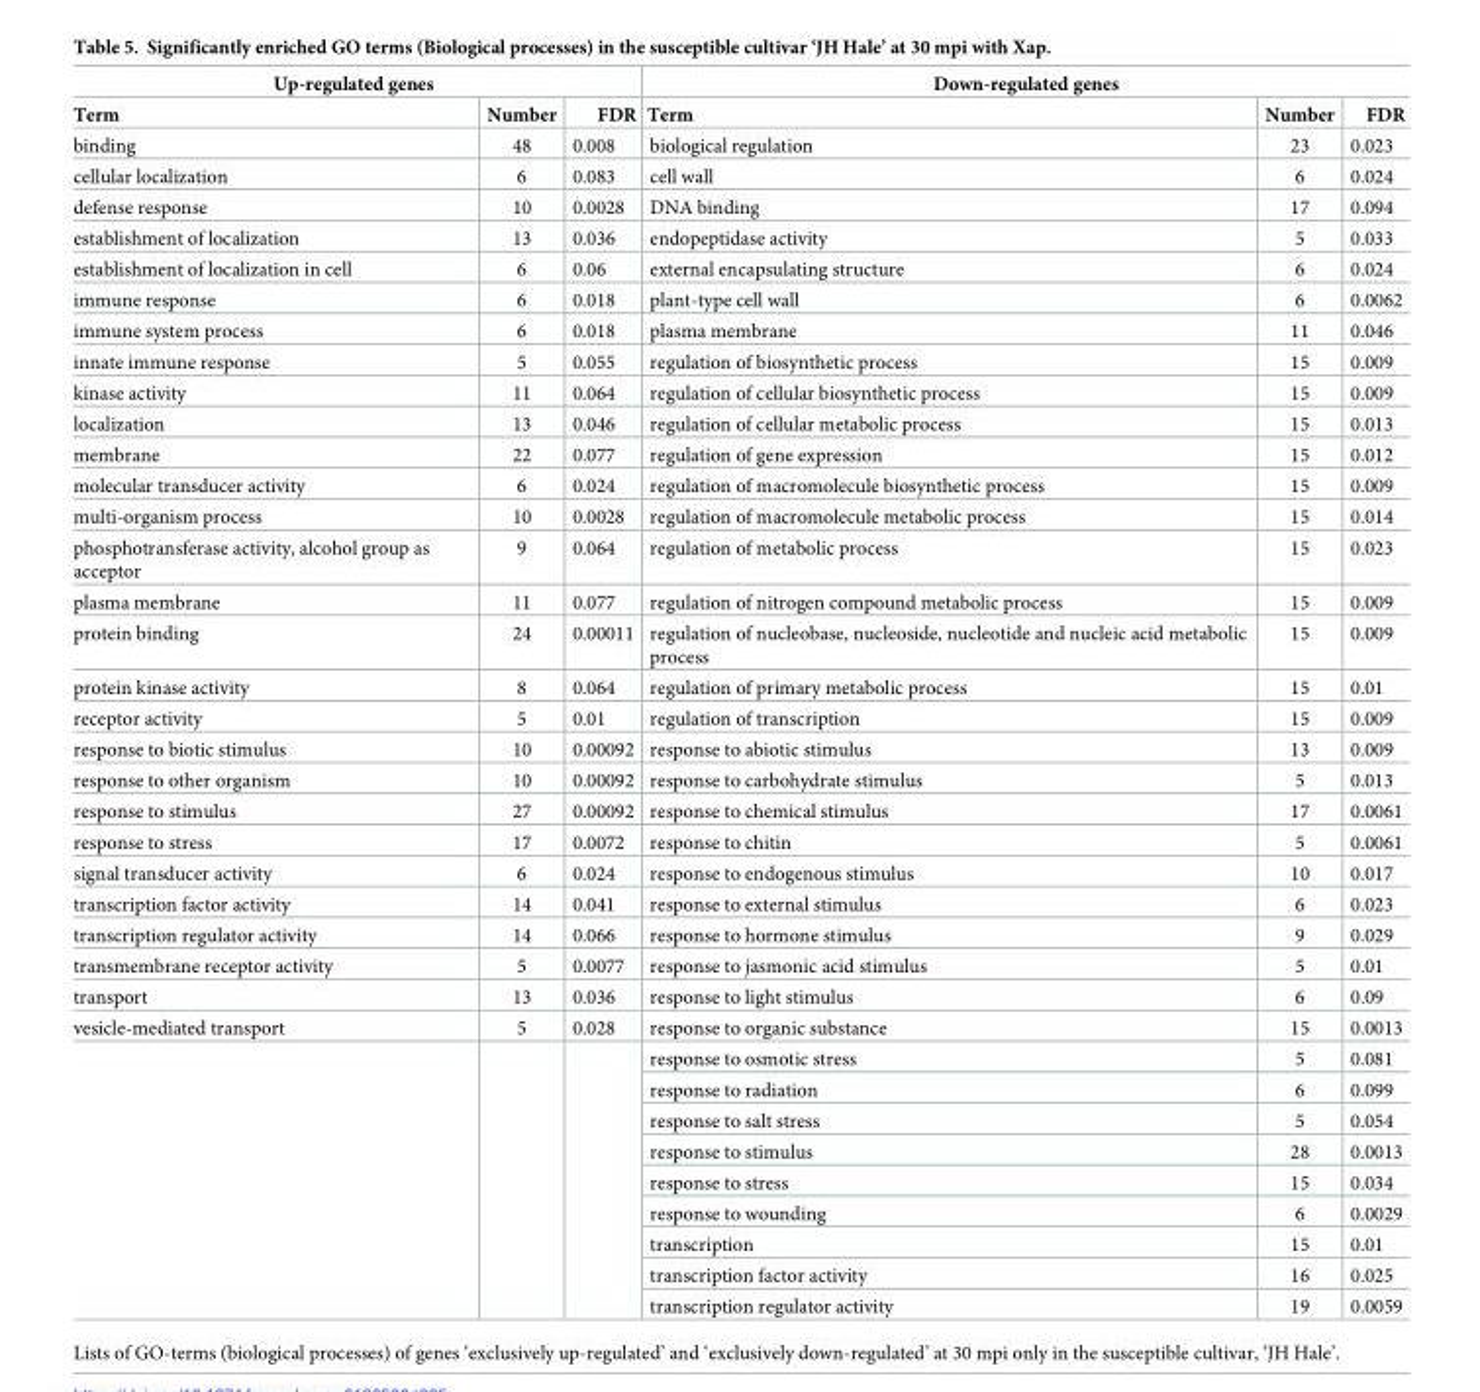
<table><thead><tr><td colspan="3">Up-regulated genes</td><td colspan="3">Down-regulated genes</td></tr><tr><td>Term</td><td>Number</td><td>FDR</td><td>Term</td><td>Number</td><td>FDR</td></tr></thead><tbody><tr><td>binding</td><td>48</td><td>0.008</td><td>biological regulation</td><td>23</td><td>0.023</td></tr><tr><td>cellular localization</td><td>6</td><td>0.083</td><td>cell wall</td><td>6</td><td>0.024</td></tr><tr><td>defense response</td><td>10</td><td>0.0028</td><td>DNA binding</td><td>17</td><td>0.094</td></tr><tr><td>establishment of localization</td><td>13</td><td>0.036</td><td>endopeptidase activity</td><td>5</td><td>0.033</td></tr><tr><td>establishment of localization in cell</td><td>6</td><td>0.06</td><td>external encapsulating structure</td><td>6</td><td>0.024</td></tr><tr><td>immune response</td><td>6</td><td>0.018</td><td>plant-type cell wall</td><td>6</td><td>0.0062</td></tr><tr><td>immune system process</td><td>6</td><td>0.018</td><td>plasma membrane</td><td>11</td><td>0.046</td></tr><tr><td>innate immune response</td><td>5</td><td>0.055</td><td>regulation of biosynthetic process</td><td>15</td><td>0.009</td></tr><tr><td>kinase activity</td><td>11</td><td>0.064</td><td>regulation of cellular biosynthetic process</td><td>15</td><td>0.009</td></tr><tr><td>localization</td><td>13</td><td>0.046</td><td>regulation of cellular metabolic process</td><td>15</td><td>0.013</td></tr><tr><td>membrane</td><td>22</td><td>0.077</td><td>regulation of gene expression</td><td>15</td><td>0.012</td></tr><tr><td>molecular transducer activity</td><td>6</td><td>0.024</td><td>regulation of macromolecule biosynthetic process</td><td>15</td><td>0.009</td></tr><tr><td>multi-organism process</td><td>10</td><td>0.0028</td><td>regulation of macromolecule metabolic process</td><td>15</td><td>0.014</td></tr><tr><td>phosphotransferase activity, alcohol group as acceptor</td><td>9</td><td>0.064</td><td>regulation of metabolic process</td><td>15</td><td>0.023</td></tr><tr><td>plasma membrane</td><td>11</td><td>0.077</td><td>regulation of nitrogen compound metabolic process</td><td>15</td><td>0.009</td></tr><tr><td>protein binding</td><td>24</td><td>0.00011</td><td>regulation of nucleobase, nucleoside, nucleotide and nucleic acid metabolic process</td><td>15</td><td>0.009</td></tr><tr><td>protein kinase activity</td><td>8</td><td>0.064</td><td>regulation of primary metabolic process</td><td>15</td><td>0.01</td></tr><tr><td>receptor activity</td><td>5</td><td>0.01</td><td>regulation of transcription</td><td>15</td><td>0.009</td></tr><tr><td>response to biotic stimulus</td><td>10</td><td>0.00092</td><td>response to abiotic stimulus</td><td>13</td><td>0.009</td></tr><tr><td>response to other organism</td><td>10</td><td>0.00092</td><td>response to carbohydrate stimulus</td><td>5</td><td>0.013</td></tr><tr><td>response to stimulus</td><td>27</td><td>0.00092</td><td>response to chemical stimulus</td><td>17</td><td>0.0061</td></tr><tr><td>response to stress</td><td>17</td><td>0.0072</td><td>response to chitin</td><td>5</td><td>0.0061</td></tr><tr><td>signal transducer activity</td><td>6</td><td>0.024</td><td>response to endogenous stimulus</td><td>10</td><td>0.017</td></tr><tr><td>transcription factor activity</td><td>14</td><td>0.041</td><td>response to external stimulus</td><td>6</td><td>0.023</td></tr><tr><td>transcription regulator activity</td><td>14</td><td>0.066</td><td>response to hormone stimulus</td><td>9</td><td>0.029</td></tr><tr><td>transmembrane receptor activity</td><td>5</td><td>0.0077</td><td>response to jasmonic acid stimulus</td><td>5</td><td>0.01</td></tr><tr><td>transport</td><td>13</td><td>0.036</td><td>response to light stimulus</td><td>6</td><td>0.09</td></tr><tr><td rowspan="10">vesicle-mediated transport</td><td>5</td><td>0.028</td><td>response to organic substance</td><td>15</td><td>0.0013</td></tr><tr><td rowspan="9"></td><td rowspan="9"></td><td>response to osmotic stress</td><td>5</td><td>0.081</td></tr><tr><td>response to radiation</td><td>6</td><td>0.099</td></tr><tr><td>response to salt stress</td><td>5</td><td>0.054</td></tr><tr><td>response to stimulus</td><td>28</td><td>0.0013</td></tr><tr><td>response to stress</td><td>15</td><td>0.034</td></tr><tr><td>response to wounding</td><td>6</td><td>0.0029</td></tr><tr><td>transcription</td><td>15</td><td>0.01</td></tr><tr><td>transcription factor activity</td><td>16</td><td>0.025</td></tr><tr><td>transcription regulator activity</td><td>19</td><td>0.0059</td></tr></tbody></table>